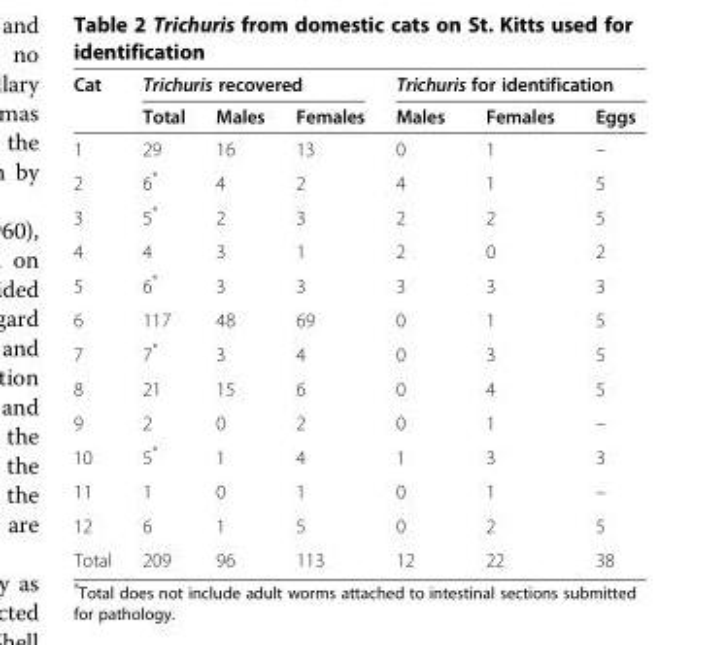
<table><thead><tr><td rowspan="2">Cat</td><td colspan="3">Trichuris recovered</td><td colspan="3">Trichuris for identification</td></tr><tr><td>Total</td><td>Males</td><td>Females</td><td>Males</td><td>Females</td><td>Eggs</td></tr></thead><tbody><tr><td>1</td><td>29</td><td>16</td><td>13</td><td>0</td><td>1</td><td>–</td></tr><tr><td>2</td><td>6*</td><td>4</td><td>2</td><td>4</td><td>1</td><td>5</td></tr><tr><td>3</td><td>5*</td><td>2</td><td>3</td><td>2</td><td>2</td><td>5</td></tr><tr><td>4</td><td>4</td><td>3</td><td>1</td><td>2</td><td>0</td><td>2</td></tr><tr><td>5</td><td>6*</td><td>3</td><td>3</td><td>3</td><td>3</td><td>3</td></tr><tr><td>6</td><td>117</td><td>48</td><td>69</td><td>0</td><td>1</td><td>5</td></tr><tr><td>7</td><td>7*</td><td>3</td><td>4</td><td>0</td><td>3</td><td>5</td></tr><tr><td>8</td><td>21</td><td>15</td><td>6</td><td>0</td><td>4</td><td>5</td></tr><tr><td>9</td><td>2</td><td>0</td><td>2</td><td>0</td><td>1</td><td>–</td></tr><tr><td>10</td><td>5*</td><td>1</td><td>4</td><td>1</td><td>3</td><td>3</td></tr><tr><td>11</td><td>1</td><td>0</td><td>1</td><td>0</td><td>1</td><td>–</td></tr><tr><td>12</td><td>6</td><td>1</td><td>5</td><td>0</td><td>2</td><td>5</td></tr><tr><td>Total</td><td>209</td><td>96</td><td>113</td><td>12</td><td>22</td><td>38</td></tr></tbody></table>